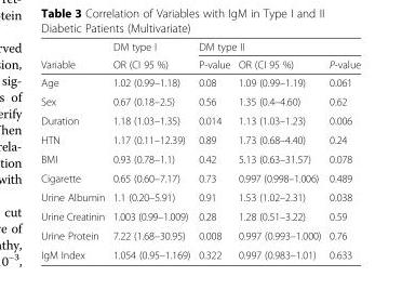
<table><thead><tr><td rowspan="2">Variable</td><td rowspan="2">DM type I OR (CI 95 %)</td><td colspan="3">DM type II</td></tr><tr><td>P-value</td><td>OR (CI 95 %)</td><td>P-value</td></tr></thead><tbody><tr><td>Age</td><td>1.02 (0.99–1.18)</td><td>0.08</td><td>1.09 (0.99–1.19)</td><td>0.061</td></tr><tr><td>Sex</td><td>0.67 (0.18–2.5)</td><td>0.56</td><td>1.35 (0.4–4.60)</td><td>0.62</td></tr><tr><td>Duration</td><td>1.18 (1.03–1.35)</td><td>0.014</td><td>1.13 (1.03–1.23)</td><td>0.006</td></tr><tr><td>HTN</td><td>1.17 (0.11–12.39)</td><td>0.89</td><td>1.73 (0.68–4.40)</td><td>0.24</td></tr><tr><td>BMI</td><td>0.93 (0.78–1.1)</td><td>0.42</td><td>5.13 (0.63–31.57)</td><td>0.078</td></tr><tr><td>Cigarette</td><td>0.65 (0.60–7.17)</td><td>0.73</td><td>0.997 (0.998–1.006)</td><td>0.489</td></tr><tr><td>Urine Albumin</td><td>1.1 (0.20–5.91)</td><td>0.91</td><td>1.53 (1.02–2.31)</td><td>0.038</td></tr><tr><td>Urine Creatinin</td><td>1.003 (0.99–1.009)</td><td>0.28</td><td>1.28 (0.51–3.22)</td><td>0.59</td></tr><tr><td>Urine Protein</td><td>7.22 (1.68–30.95)</td><td>0.008</td><td>0.997 (0.993–1.000)</td><td>0.76</td></tr><tr><td>IgM Index</td><td>1.054 (0.95–1.169)</td><td>0.322</td><td>0.997 (0.983–1.01)</td><td>0.633</td></tr></tbody></table>